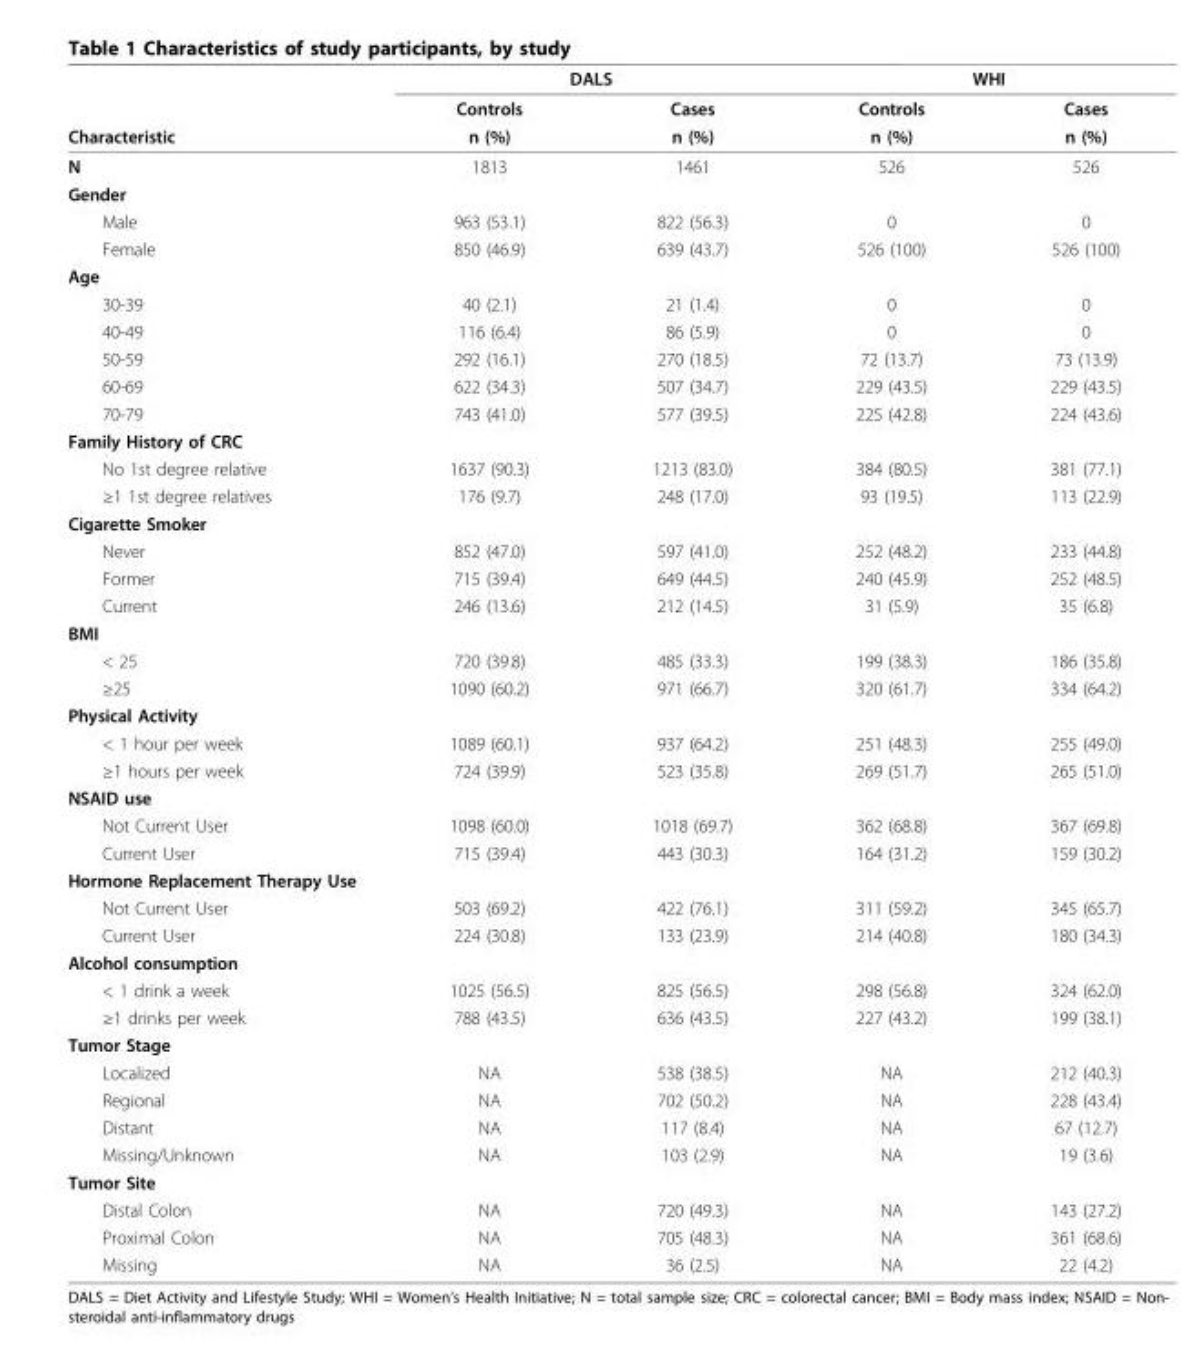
<table><thead><tr><td rowspan="3">Characteristic</td><td colspan="2">DALS</td><td colspan="2">WHI</td></tr><tr><td rowspan="2">Controls n (%)</td><td rowspan="2">Cases n (%)</td><td rowspan="2">Controls n (%)</td><td rowspan="2">Cases n (%)</td></tr><tr></tr></thead><tbody><tr><td>N</td><td>1813</td><td>1461</td><td>526</td><td>526</td></tr><tr><td colspan="5">Gender</td></tr><tr><td>Male</td><td>963 (53.1)</td><td>822 (56.3)</td><td>0</td><td>0</td></tr><tr><td>Female</td><td>850 (46.9)</td><td>639 (43.7)</td><td>526 (100)</td><td>526 (100)</td></tr><tr><td colspan="5">Age</td></tr><tr><td>30-39</td><td>40 (2.1)</td><td>21 (1.4)</td><td>0</td><td>0</td></tr><tr><td>40-49</td><td>116 (6.4)</td><td>86 (5.9)</td><td>0</td><td>0</td></tr><tr><td>50-59</td><td>292 (16.1)</td><td>270 (18.5)</td><td>72 (13.7)</td><td>73 (13.9)</td></tr><tr><td>60-69</td><td>622 (34.3)</td><td>507 (34.7)</td><td>229 (43.5)</td><td>229 (43.5)</td></tr><tr><td>70-79</td><td>743 (41.0)</td><td>577 (39.5)</td><td>225 (42.8)</td><td>224 (43.6)</td></tr><tr><td colspan="5">Family History of CRC</td></tr><tr><td>No 1st degree relative</td><td>1637 (90.3)</td><td>1213 (83.0)</td><td>384 (80.5)</td><td>381 (77.1)</td></tr><tr><td>≥1 1st degree relatives</td><td>176 (9.7)</td><td>248 (17.0)</td><td>93 (19.5)</td><td>113 (22.9)</td></tr><tr><td colspan="5">Cigarette Smoker</td></tr><tr><td>Never</td><td>852 (47.0)</td><td>597 (41.0)</td><td>252 (48.2)</td><td>233 (44.8)</td></tr><tr><td>Former</td><td>715 (39.4)</td><td>649 (44.5)</td><td>240 (45.9)</td><td>252 (48.5)</td></tr><tr><td>Current</td><td>246 (13.6)</td><td>212 (14.5)</td><td>31 (5.9)</td><td>35 (6.8)</td></tr><tr><td colspan="5">BMI</td></tr><tr><td>&lt; 25</td><td>720 (39.8)</td><td>485 (33.3)</td><td>199 (38.3)</td><td>186 (35.8)</td></tr><tr><td>≥25</td><td>1090 (60.2)</td><td>971 (66.7)</td><td>320 (61.7)</td><td>334 (64.2)</td></tr><tr><td colspan="5">Physical Activity</td></tr><tr><td>&lt; 1 hour per week</td><td>1089 (60.1)</td><td>937 (64.2)</td><td>251 (48.3)</td><td>255 (49.0)</td></tr><tr><td>≥1 hours per week</td><td>724 (39.9)</td><td>523 (35.8)</td><td>269 (51.7)</td><td>265 (51.0)</td></tr><tr><td colspan="5">NSAID use</td></tr><tr><td>Not Current User</td><td>1098 (60.0)</td><td>1018 (69.7)</td><td>362 (68.8)</td><td>367 (69.8)</td></tr><tr><td>Current User</td><td>715 (39.4)</td><td>443 (30.3)</td><td>164 (31.2)</td><td>159 (30.2)</td></tr><tr><td colspan="5">Hormone Replacement Therapy Use</td></tr><tr><td>Not Current User</td><td>503 (69.2)</td><td>422 (76.1)</td><td>311 (59.2)</td><td>345 (65.7)</td></tr><tr><td>Current User</td><td>224 (30.8)</td><td>133 (23.9)</td><td>214 (40.8)</td><td>180 (34.3)</td></tr><tr><td colspan="5">Alcohol consumption</td></tr><tr><td>&lt; 1 drink a week</td><td>1025 (56.5)</td><td>825 (56.5)</td><td>298 (56.8)</td><td>324 (62.0)</td></tr><tr><td>≥1 drinks per week</td><td>788 (43.5)</td><td>636 (43.5)</td><td>227 (43.2)</td><td>199 (38.1)</td></tr><tr><td colspan="5">Tumor Stage</td></tr><tr><td>Localized</td><td>NA</td><td>538 (38.5)</td><td>NA</td><td>212 (40.3)</td></tr><tr><td>Regional</td><td>NA</td><td>702 (50.2)</td><td>NA</td><td>228 (43.4)</td></tr><tr><td>Distant</td><td>NA</td><td>117 (8.4)</td><td>NA</td><td>67 (12.7)</td></tr><tr><td>Missing/Unknown</td><td>NA</td><td>103 (2.9)</td><td>NA</td><td>19 (3.6)</td></tr><tr><td colspan="5">Tumor Site</td></tr><tr><td>Distal Colon</td><td>NA</td><td>720 (49.3)</td><td>NA</td><td>143 (27.2)</td></tr><tr><td>Proximal Colon</td><td>NA</td><td>705 (48.3)</td><td>NA</td><td>361 (68.6)</td></tr><tr><td>Missing</td><td>NA</td><td>36 (2.5)</td><td>NA</td><td>22 (4.2)</td></tr></tbody></table>